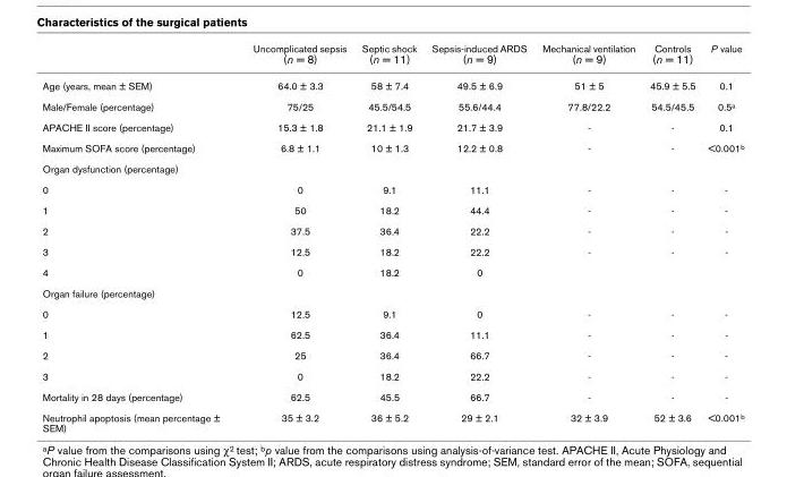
<table><thead><tr><td></td><td>Uncomplicated sepsis (n = 8)</td><td>Septic shock (n = 11)</td><td>Sepsis-induced ARDS (n = 9)</td><td>Mechanical ventilation (n = 9)</td><td>Controls (n = 11)</td><td>P value</td></tr></thead><tbody><tr><td>Age (years, mean ± SEM)</td><td>64.0 ± 3.3</td><td>58 ± 7.4</td><td>49.5 ± 6.9</td><td>51 ± 5</td><td>45.9 ± 5.5</td><td>0.1</td></tr><tr><td>Male/Female (percentage)</td><td>75/25</td><td>45.5/54.5</td><td>55.6/44.4</td><td>77.8/22.2</td><td>54.5/45.5</td><td>0.5a</td></tr><tr><td>APACHE II score (percentage)</td><td>15.3 ± 1.8</td><td>21.1 ± 1.9</td><td>21.7 ± 3.9</td><td>-</td><td>-</td><td>0.1</td></tr><tr><td>Maximum SOFA score (percentage)</td><td>6.8 ± 1.1</td><td>10 ± 1.3</td><td>12.2 ± 0.8</td><td>-</td><td>-</td><td>&lt;0.001b</td></tr><tr><td colspan="7">Organ dysfunction (percentage)</td></tr><tr><td>0</td><td>0</td><td>9.1</td><td>11.1</td><td>-</td><td>-</td><td>-</td></tr><tr><td>1</td><td>50</td><td>18.2</td><td>44.4</td><td>-</td><td>-</td><td>-</td></tr><tr><td>2</td><td>37.5</td><td>36.4</td><td>22.2</td><td>-</td><td>-</td><td>-</td></tr><tr><td>3</td><td>12.5</td><td>18.2</td><td>22.2</td><td>-</td><td>-</td><td>-</td></tr><tr><td>4</td><td>0</td><td>18.2</td><td>0</td><td></td><td></td><td></td></tr><tr><td colspan="7">Organ failure (percentage)</td></tr><tr><td>0</td><td>12.5</td><td>9.1</td><td>0</td><td>-</td><td>-</td><td>-</td></tr><tr><td>1</td><td>62.5</td><td>36.4</td><td>11.1</td><td>-</td><td>-</td><td>-</td></tr><tr><td>2</td><td>25</td><td>36.4</td><td>66.7</td><td>-</td><td>-</td><td>-</td></tr><tr><td>3</td><td>0</td><td>18.2</td><td>22.2</td><td>-</td><td>-</td><td>-</td></tr><tr><td>Mortality in 28 days (percentage)</td><td>62.5</td><td>45.5</td><td>66.7</td><td>-</td><td>-</td><td>-</td></tr><tr><td>Neutrophil apoptosis (mean percentage ± SEM)</td><td>35 ± 3.2</td><td>36 ± 5.2</td><td>29 ± 2.1</td><td>32 ± 3.9</td><td>52 ± 3.6</td><td>&lt;0.001b</td></tr></tbody></table>